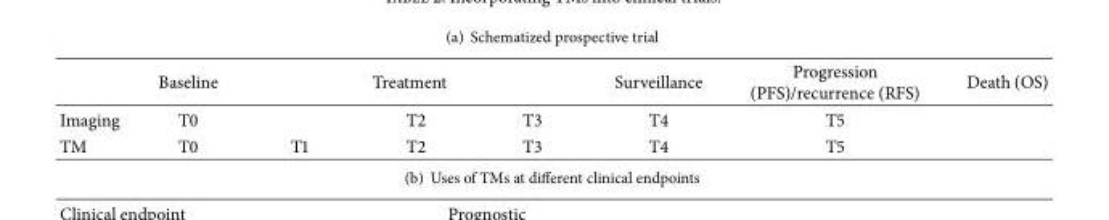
<table><thead><tr><td rowspan="2">Imaging</td><td rowspan="2">Baseline T0</td><td colspan="3">Treatment</td><td rowspan="2">Surveillance T4</td><td rowspan="2">Progression (PFS)/recurrence (RFS) T5</td><td rowspan="2">Death (OS)</td></tr><tr><td></td><td>T2</td><td>T3</td></tr></thead><tbody><tr><td>TM</td><td>T0</td><td>T1</td><td>T2</td><td>T3</td><td>T4</td><td>T5</td><td></td></tr></tbody></table>